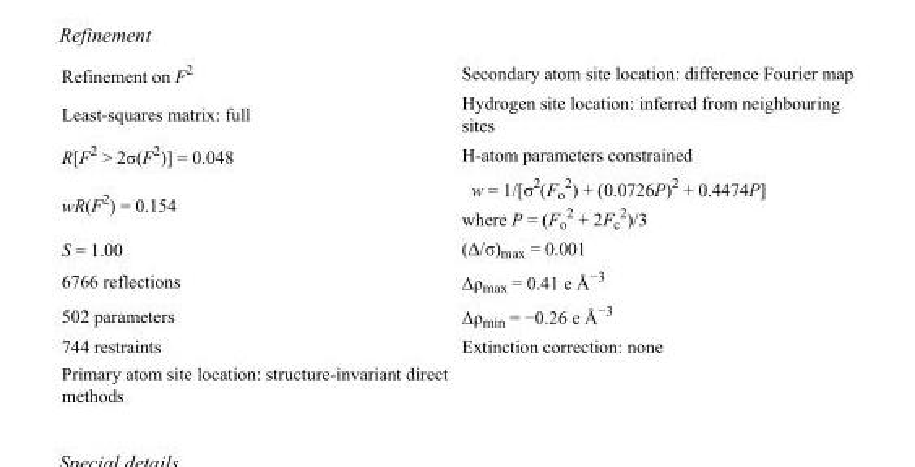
<table><tbody><tr><td>Refinement on F<sup>2</sup></td><td>Secondary atom site location: difference Fourier map</td></tr><tr><td>Least-squares matrix: full</td><td>Hydrogen site location: inferred from neighbouring sites</td></tr><tr><td>R[F<sup>2</sup> &gt; 2σ(F<sup>2</sup>)] = 0.048</td><td>H-atom parameters constrained</td></tr><tr><td>wR(F<sup>2</sup>) = 0.154</td><td>w = 1/[σ<sup>2</sup>(F<sub>o</sub> <sup>2</sup>) + (0.0726P)<sup>2</sup> + 0.4474P] where P = (F<sub>o</sub> <sup>2</sup> + 2F<sub>c</sub> <sup>2</sup>)/3</td></tr><tr><td>S = 1.00</td><td>(Δ/σ)<sub>max</sub> = 0.001</td></tr><tr><td>6766 reflections</td><td>Δρ<sub>max</sub> = 0.41 e Å<sup>−3</sup></td></tr><tr><td>502 parameters</td><td>Δρ<sub>min</sub> = −0.26 e Å<sup>−3</sup></td></tr><tr><td>744 restraints</td><td>Extinction correction: none</td></tr><tr><td>Primary atom site location: structure-invariant direct methods</td><td></td></tr></tbody></table>